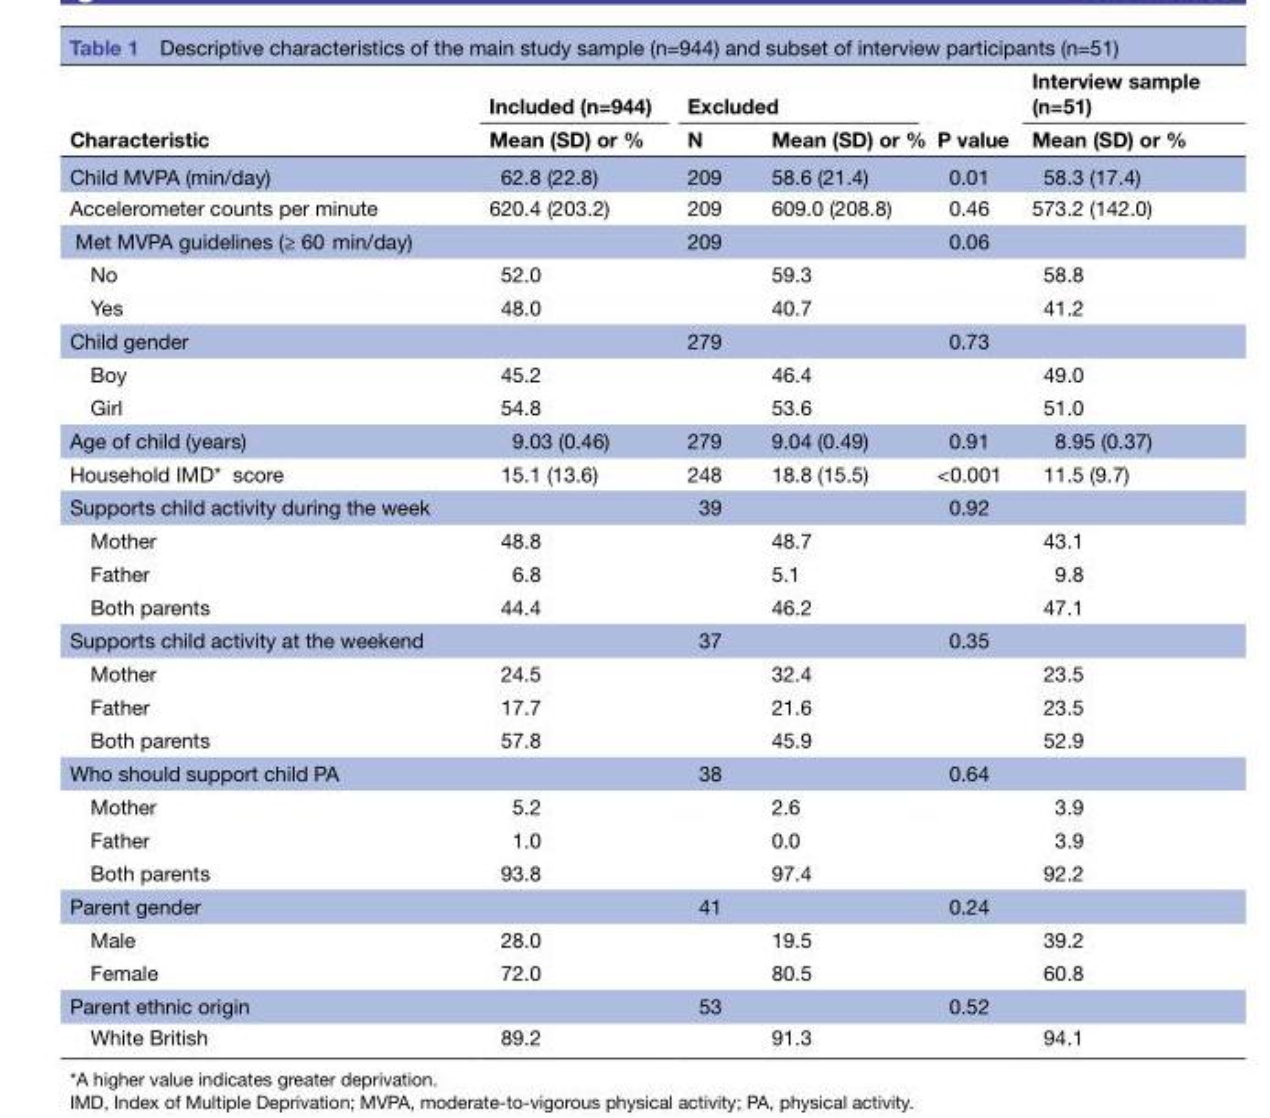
<table><thead><tr><td rowspan="2">Characteristic</td><td rowspan="2">Included (n=944) Mean (SD) or %</td><td colspan="2">Excluded</td><td rowspan="2">P value</td><td rowspan="2">Interview sample (n=51) Mean (SD) or %</td></tr><tr><td>N</td><td>Mean (SD) or %</td></tr></thead><tbody><tr><td>Child MVPA (min/day)</td><td>62.8 (22.8)</td><td>209</td><td>58.6 (21.4)</td><td>0.01</td><td>58.3 (17.4)</td></tr><tr><td>Accelerometer counts per minute</td><td>620.4 (203.2)</td><td>209</td><td>609.0 (208.8)</td><td>0.46</td><td>573.2 (142.0)</td></tr><tr><td>Met MVPA guidelines (≥ 60 min/day)</td><td></td><td>209</td><td></td><td>0.06</td><td></td></tr><tr><td>No</td><td>52.0</td><td rowspan="2"></td><td>59.3</td><td></td><td>58.8</td></tr><tr><td>Yes</td><td>48.0</td><td>40.7</td><td></td><td>41.2</td></tr><tr><td>Child gender</td><td></td><td>279</td><td></td><td>0.73</td><td></td></tr><tr><td>Boy</td><td>45.2</td><td rowspan="2"></td><td>46.4</td><td></td><td>49.0</td></tr><tr><td>Girl</td><td>54.8</td><td>53.6</td><td></td><td>51.0</td></tr><tr><td>Age of child (years)</td><td>9.03 (0.46)</td><td>279</td><td>9.04 (0.49)</td><td>0.91</td><td>8.95 (0.37)</td></tr><tr><td>Household IMD* score</td><td>15.1 (13.6)</td><td>248</td><td>18.8 (15.5)</td><td>&lt;0.001</td><td>11.5 (9.7)</td></tr><tr><td>Supports child activity during the week</td><td></td><td>39</td><td></td><td>0.92</td><td></td></tr><tr><td>Mother</td><td>48.8</td><td rowspan="3"></td><td>48.7</td><td></td><td>43.1</td></tr><tr><td>Father</td><td>6.8</td><td>5.1</td><td></td><td>9.8</td></tr><tr><td>Both parents</td><td>44.4</td><td>46.2</td><td></td><td>47.1</td></tr><tr><td>Supports child activity at the weekend</td><td></td><td>37</td><td></td><td>0.35</td><td></td></tr><tr><td>Mother</td><td>24.5</td><td rowspan="3"></td><td>32.4</td><td></td><td>23.5</td></tr><tr><td>Father</td><td>17.7</td><td>21.6</td><td></td><td>23.5</td></tr><tr><td>Both parents</td><td>57.8</td><td>45.9</td><td></td><td>52.9</td></tr><tr><td>Who should support child PA</td><td></td><td>38</td><td></td><td>0.64</td><td></td></tr><tr><td>Mother</td><td>5.2</td><td rowspan="3"></td><td>2.6</td><td></td><td>3.9</td></tr><tr><td>Father</td><td>1.0</td><td>0.0</td><td></td><td>3.9</td></tr><tr><td>Both parents</td><td>93.8</td><td>97.4</td><td></td><td>92.2</td></tr><tr><td>Parent gender</td><td></td><td>41</td><td></td><td>0.24</td><td></td></tr><tr><td>Male</td><td>28.0</td><td rowspan="2"></td><td>19.5</td><td></td><td>39.2</td></tr><tr><td>Female</td><td>72.0</td><td>80.5</td><td></td><td>60.8</td></tr><tr><td>Parent ethnic origin</td><td></td><td>53</td><td></td><td>0.52</td><td></td></tr><tr><td>White British</td><td>89.2</td><td></td><td>91.3</td><td></td><td>94.1</td></tr></tbody></table>